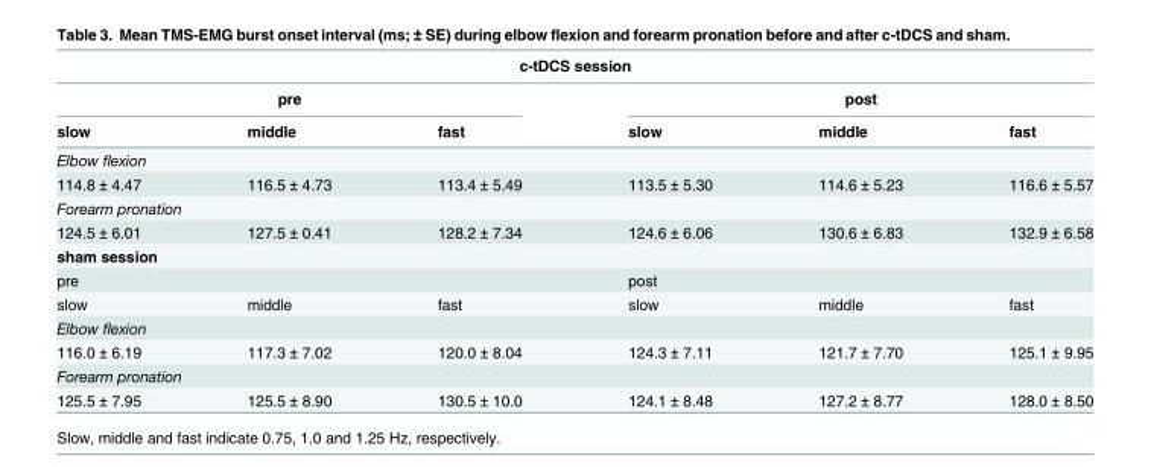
<table><thead><tr><td colspan="6">c-tDCS session</td></tr><tr><td colspan="3">pre</td><td colspan="3">post</td></tr><tr><td>slow</td><td>middle</td><td>fast</td><td>slow</td><td>middle</td><td>fast</td></tr></thead><tbody><tr><td colspan="6">Elbow flexion</td></tr><tr><td>114.8 ± 4.47</td><td>116.5 ± 4.73</td><td>113.4 ± 5.49</td><td>113.5 ± 5.30</td><td>114.6 ± 5.23</td><td>116.6 ± 5.57</td></tr><tr><td colspan="6">Forearm pronation</td></tr><tr><td>124.5 ± 6.01</td><td>127.5 ± 0.41</td><td>128.2 ± 7.34</td><td>124.6 ± 6.06</td><td>130.6 ± 6.83</td><td>132.9 ± 6.58</td></tr><tr><td colspan="6">sham session</td></tr><tr><td colspan="3">pre</td><td colspan="3">post</td></tr><tr><td>slow</td><td>middle</td><td>fast</td><td>slow</td><td>middle</td><td>fast</td></tr><tr><td colspan="6">Elbow flexion</td></tr><tr><td>116.0 ± 6.19</td><td>117.3 ± 7.02</td><td>120.0 ± 8.04</td><td>124.3 ± 7.11</td><td>121.7 ± 7.70</td><td>125.1 ± 9.95</td></tr><tr><td colspan="6">Forearm pronation</td></tr><tr><td>125.5 ± 7.95</td><td>125.5 ± 8.90</td><td>130.5 ± 10.0</td><td>124.1 ± 8.48</td><td>127.2 ± 8.77</td><td>128.0 ± 8.50</td></tr></tbody></table>